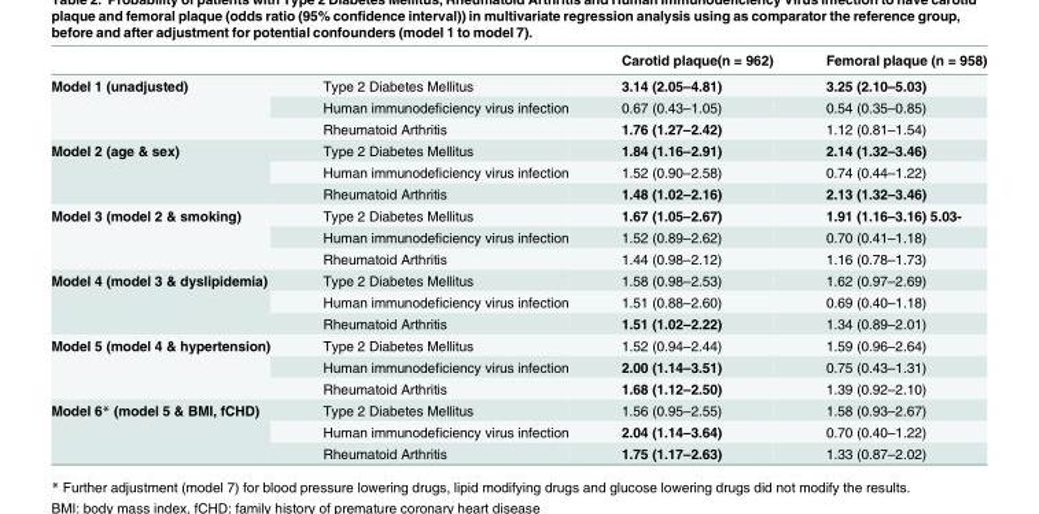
<table><thead><tr><td></td><td></td><td>Carotid plaque(n = 962)</td><td>Femoral plaque (n = 958)</td></tr></thead><tbody><tr><td rowspan="3">Model 1 (unadjusted)</td><td>Type 2 Diabetes Mellitus</td><td>3.14 (2.05–4.81)</td><td>3.25 (2.10–5.03)</td></tr><tr><td>Human immunodeficiency virus infection</td><td>0.67 (0.43–1.05)</td><td>0.54 (0.35–0.85)</td></tr><tr><td>Rheumatoid Arthritis</td><td>1.76 (1.27–2.42)</td><td>1.12 (0.81–1.54)</td></tr><tr><td rowspan="3">Model 2 (age &amp; sex)</td><td>Type 2 Diabetes Mellitus</td><td>1.84 (1.16–2.91)</td><td>2.14 (1.32–3.46)</td></tr><tr><td>Human immunodeficiency virus infection</td><td>1.52 (0.90–2.58)</td><td>0.74 (0.44–1.22)</td></tr><tr><td>Rheumatoid Arthritis</td><td>1.48 (1.02–2.16)</td><td>2.13 (1.32–3.46)</td></tr><tr><td rowspan="3">Model 3 (model 2 &amp; smoking)</td><td>Type 2 Diabetes Mellitus</td><td>1.67 (1.05–2.67)</td><td>1.91 (1.16–3.16) 5.03-</td></tr><tr><td>Human immunodeficiency virus infection</td><td>1.52 (0.89–2.62)</td><td>0.70 (0.41–1.18)</td></tr><tr><td>Rheumatoid Arthritis</td><td>1.44 (0.98–2.12)</td><td>1.16 (0.78–1.73)</td></tr><tr><td rowspan="3">Model 4 (model 3 &amp; dyslipidemia)</td><td>Type 2 Diabetes Mellitus</td><td>1.58 (0.98–2.53)</td><td>1.62 (0.97–2.69)</td></tr><tr><td>Human immunodeficiency virus infection</td><td>1.51 (0.88–2.60)</td><td>0.69 (0.40–1.18)</td></tr><tr><td>Rheumatoid Arthritis</td><td>1.51 (1.02–2.22)</td><td>1.34 (0.89–2.01)</td></tr><tr><td rowspan="3">Model 5 (model 4 &amp; hypertension)</td><td>Type 2 Diabetes Mellitus</td><td>1.52 (0.94–2.44)</td><td>1.59 (0.96–2.64)</td></tr><tr><td>Human immunodeficiency virus infection</td><td>2.00 (1.14–3.51)</td><td>0.75 (0.43–1.31)</td></tr><tr><td>Rheumatoid Arthritis</td><td>1.68 (1.12–2.50)</td><td>1.39 (0.92–2.10)</td></tr><tr><td rowspan="3">Model 6* (model 5 &amp; BMI, fCHD)</td><td>Type 2 Diabetes Mellitus</td><td>1.56 (0.95–2.55)</td><td>1.58 (0.93–2.67)</td></tr><tr><td>Human immunodeficiency virus infection</td><td>2.04 (1.14–3.64)</td><td>0.70 (0.40–1.22)</td></tr><tr><td>Rheumatoid Arthritis</td><td>1.75 (1.17–2.63)</td><td>1.33 (0.87–2.02)</td></tr></tbody></table>